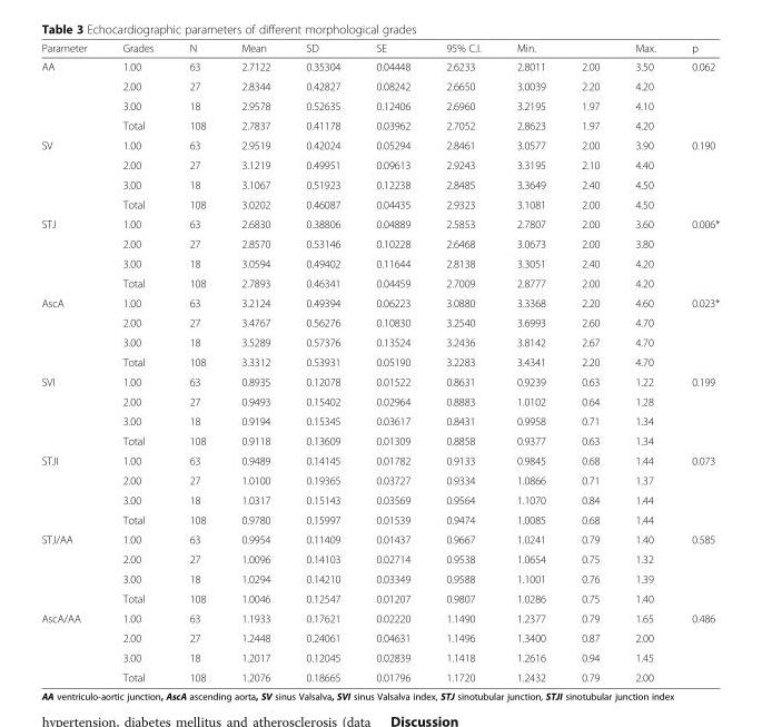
<table><thead><tr><td rowspan="2">Parameter AA</td><td rowspan="2">Grades 1.00</td><td rowspan="2">N 63</td><td rowspan="2">Mean 2.7122</td><td rowspan="2">SD 0.35304</td><td rowspan="2">SE 0.04448</td><td rowspan="2">95% C.I. 2.6233</td><td colspan="2">Min.</td><td rowspan="2">Max. 3.50</td><td rowspan="2">p 0.062</td></tr><tr><td>2.8011</td><td>2.00</td></tr></thead><tbody><tr><td></td><td>2.00</td><td>27</td><td>2.8344</td><td>0.42827</td><td>0.08242</td><td>2.6650</td><td>3.0039</td><td>2.20</td><td>4.20</td><td></td></tr><tr><td></td><td>3.00</td><td>18</td><td>2.9578</td><td>0.52635</td><td>0.12406</td><td>2.6960</td><td>3.2195</td><td>1.97</td><td>4.10</td><td></td></tr><tr><td></td><td>Total</td><td>108</td><td>2.7837</td><td>0.41178</td><td>0.03962</td><td>2.7052</td><td>2.8623</td><td>1.97</td><td>4.20</td><td></td></tr><tr><td rowspan="4">SV</td><td>1.00</td><td>63</td><td>2.9519</td><td>0.42024</td><td>0.05294</td><td>2.8461</td><td>3.0577</td><td>2.00</td><td>3.90</td><td>0.190</td></tr><tr><td>2.00</td><td>27</td><td>3.1219</td><td>0.49951</td><td>0.09613</td><td>2.9243</td><td>3.3195</td><td>2.10</td><td>4.40</td><td></td></tr><tr><td>3.00</td><td>18</td><td>3.1067</td><td>0.51923</td><td>0.12238</td><td>2.8485</td><td>3.3649</td><td>2.40</td><td>4.50</td><td></td></tr><tr><td>Total</td><td>108</td><td>3.0202</td><td>0.46087</td><td>0.04435</td><td>2.9323</td><td>3.1081</td><td>2.00</td><td>4.50</td><td></td></tr><tr><td rowspan="4">STJ</td><td>1.00</td><td>63</td><td>2.6830</td><td>0.38806</td><td>0.04889</td><td>2.5853</td><td>2.7807</td><td>2.00</td><td>3.60</td><td>0.006*</td></tr><tr><td>2.00</td><td>27</td><td>2.8570</td><td>0.53146</td><td>0.10228</td><td>2.6468</td><td>3.0673</td><td>2.00</td><td>3.80</td><td></td></tr><tr><td>3.00</td><td>18</td><td>3.0594</td><td>0.49402</td><td>0.11644</td><td>2.8138</td><td>3.3051</td><td>2.40</td><td>4.20</td><td></td></tr><tr><td>Total</td><td>108</td><td>2.7893</td><td>0.46341</td><td>0.04459</td><td>2.7009</td><td>2.8777</td><td>2.00</td><td>4.20</td><td></td></tr><tr><td rowspan="4">AscA</td><td>1.00</td><td>63</td><td>3.2124</td><td>0.49394</td><td>0.06223</td><td>3.0880</td><td>3.3368</td><td>2.20</td><td>4.60</td><td>0.023*</td></tr><tr><td>2.00</td><td>27</td><td>3.4767</td><td>0.56276</td><td>0.10830</td><td>3.2540</td><td>3.6993</td><td>2.60</td><td>4.70</td><td></td></tr><tr><td>3.00</td><td>18</td><td>3.5289</td><td>0.57376</td><td>0.13524</td><td>3.2436</td><td>3.8142</td><td>2.67</td><td>4.70</td><td></td></tr><tr><td>Total</td><td>108</td><td>3.3312</td><td>0.53931</td><td>0.05190</td><td>3.2283</td><td>3.4341</td><td>2.20</td><td>4.70</td><td></td></tr><tr><td rowspan="4">SVI</td><td>1.00</td><td>63</td><td>0.8935</td><td>0.12078</td><td>0.01522</td><td>0.8631</td><td>0.9239</td><td>0.63</td><td>1.22</td><td>0.199</td></tr><tr><td>2.00</td><td>27</td><td>0.9493</td><td>0.15402</td><td>0.02964</td><td>0.8883</td><td>1.0102</td><td>0.64</td><td>1.28</td><td></td></tr><tr><td>3.00</td><td>18</td><td>0.9194</td><td>0.15345</td><td>0.03617</td><td>0.8431</td><td>0.9958</td><td>0.71</td><td>1.34</td><td></td></tr><tr><td>Total</td><td>108</td><td>0.9118</td><td>0.13609</td><td>0.01309</td><td>0.8858</td><td>0.9377</td><td>0.63</td><td>1.34</td><td></td></tr><tr><td rowspan="4">STJI</td><td>1.00</td><td>63</td><td>0.9489</td><td>0.14145</td><td>0.01782</td><td>0.9133</td><td>0.9845</td><td>0.68</td><td>1.44</td><td>0.073</td></tr><tr><td>2.00</td><td>27</td><td>1.0100</td><td>0.19365</td><td>0.03727</td><td>0.9334</td><td>1.0866</td><td>0.71</td><td>1.37</td><td></td></tr><tr><td>3.00</td><td>18</td><td>1.0317</td><td>0.15143</td><td>0.03569</td><td>0.9564</td><td>1.1070</td><td>0.84</td><td>1.44</td><td></td></tr><tr><td>Total</td><td>108</td><td>0.9780</td><td>0.15997</td><td>0.01539</td><td>0.9474</td><td>1.0085</td><td>0.68</td><td>1.44</td><td></td></tr><tr><td rowspan="4">STJ/AA</td><td>1.00</td><td>63</td><td>0.9954</td><td>0.11409</td><td>0.01437</td><td>0.9667</td><td>1.0241</td><td>0.79</td><td>1.40</td><td>0.585</td></tr><tr><td>2.00</td><td>27</td><td>1.0096</td><td>0.14103</td><td>0.02714</td><td>0.9538</td><td>1.0654</td><td>0.75</td><td>1.32</td><td></td></tr><tr><td>3.00</td><td>18</td><td>1.0294</td><td>0.14210</td><td>0.03349</td><td>0.9588</td><td>1.1001</td><td>0.76</td><td>1.39</td><td></td></tr><tr><td>Total</td><td>108</td><td>1.0046</td><td>0.12547</td><td>0.01207</td><td>0.9807</td><td>1.0286</td><td>0.75</td><td>1.40</td><td></td></tr><tr><td rowspan="4">AscA/AA</td><td>1.00</td><td>63</td><td>1.1933</td><td>0.17621</td><td>0.02220</td><td>1.1490</td><td>1.2377</td><td>0.79</td><td>1.65</td><td>0.486</td></tr><tr><td>2.00</td><td>27</td><td>1.2448</td><td>0.24061</td><td>0.04631</td><td>1.1496</td><td>1.3400</td><td>0.87</td><td>2.00</td><td></td></tr><tr><td>3.00</td><td>18</td><td>1.2017</td><td>0.12045</td><td>0.02839</td><td>1.1418</td><td>1.2616</td><td>0.94</td><td>1.45</td><td></td></tr><tr><td>Total</td><td>108</td><td>1.2076</td><td>0.18665</td><td>0.01796</td><td>1.1720</td><td>1.2432</td><td>0.79</td><td>2.00</td><td></td></tr></tbody></table>